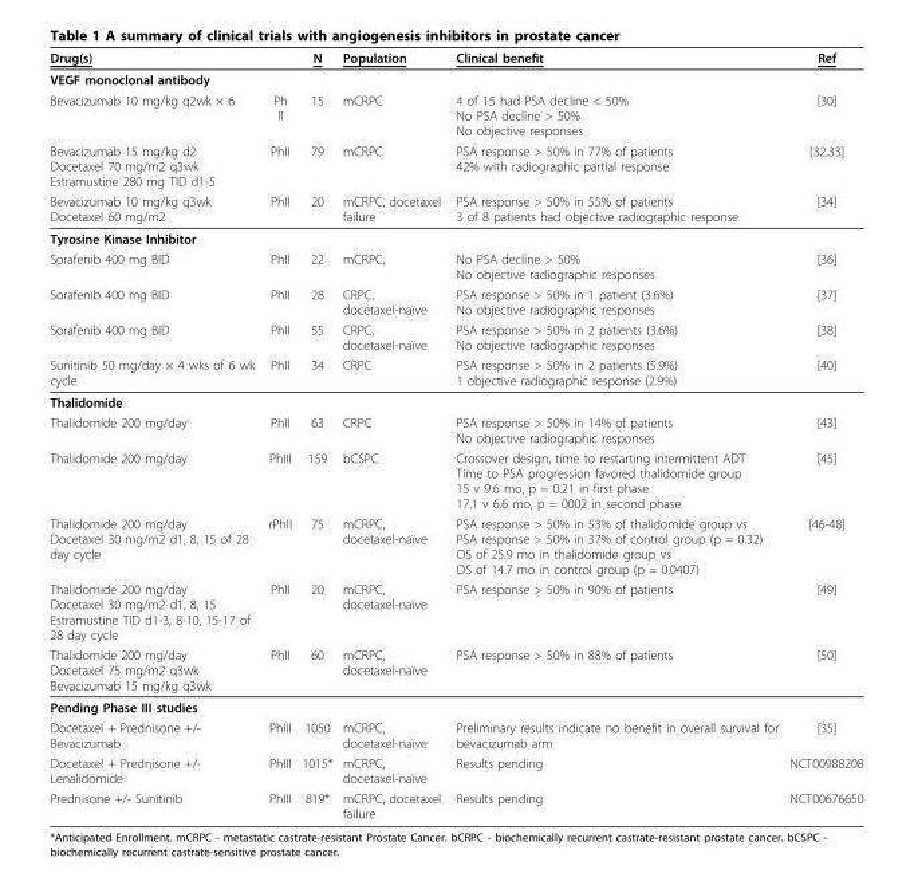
<table><thead><tr><td>Drug(s)</td><td></td><td>N</td><td>Population</td><td>Clinical benefit</td><td>Ref</td></tr></thead><tbody><tr><td colspan="6">VEGF monoclonal antibody</td></tr><tr><td>Bevacizumab 10 mg/kg q2wk × 6</td><td>Ph II</td><td>15</td><td>mCRPC</td><td>4 of 15 had PSA decline &lt; 50% No PSA decline &gt; 50% No objective responses</td><td>[30]</td></tr><tr><td>Bevacizumab 15 mg/kg d2 Docetaxel 70 mg/m2 q3wk Estramustine 280 mg TID d1-5</td><td>PhII</td><td>79</td><td>mCRPC</td><td>PSA response &gt; 50% in 77% of patients 42% with radiographic partial response</td><td>[32,33]</td></tr><tr><td>Bevacizumab 10 mg/kg q3wk Docetaxel 60 mg/m2</td><td>PhII</td><td>20</td><td>mCRPC, docetaxel failure</td><td>PSA response &gt; 50% in 55% of patients 3 of 8 patients had objective radiographic response</td><td>[34]</td></tr><tr><td colspan="6">Tyrosine Kinase Inhibitor</td></tr><tr><td>Sorafenib 400 mg BID</td><td>PhII</td><td>22</td><td>mCRPC,</td><td>No PSA decline &gt; 50% No objective radiographic responses</td><td>[36]</td></tr><tr><td>Sorafenib 400 mg BID</td><td>PhII</td><td>28</td><td>CRPC, docetaxel-naïve</td><td>PSA response &gt; 50% in 1 patient (3.6%) No objective radiographic responses</td><td>[37]</td></tr><tr><td>Sorafenib 400 mg BID</td><td>PhII</td><td>55</td><td>CRPC, docetaxel-naïve</td><td>PSA response &gt; 50% in 2 patients (3.6%) No objective radiographic responses</td><td>[38]</td></tr><tr><td>Sunitinib 50 mg/day × 4 wks of 6 wk cycle</td><td>PhII</td><td>34</td><td>CRPC</td><td>PSA response &gt; 50% in 2 patients (5.9%) 1 objective radiographic response (2.9%)</td><td>[40]</td></tr><tr><td colspan="6">Thalidomide</td></tr><tr><td>Thalidomide 200 mg/day</td><td>PhII</td><td>63</td><td>CRPC</td><td>PSA response &gt; 50% in 14% of patients No objective radiographic responses</td><td>[43]</td></tr><tr><td>Thalidomide 200 mg/day</td><td>PhIII</td><td>159</td><td>bCSPC</td><td>Crossover design, time to restarting intermittent ADT Time to PSA progression favored thalidomide group 15 v 9.6 mo, p = 0.21 in first phase 17.1 v 6.6 mo, p = 0002 in second phase</td><td>[45]</td></tr><tr><td>Thalidomide 200 mg/day Docetaxel 30 mg/m2 d1, 8, 15 of 28 day cycle</td><td>rPhII</td><td>75</td><td>mCRPC, docetaxel-naïve</td><td>PSA response &gt; 50% in 53% of thalidomide group vs PSA response &gt; 50% in 37% of control group (p = 0.32) OS of 25.9 mo in thalidomide group vs OS of 14.7 mo in control group (p = 0.0407)</td><td>[46-48]</td></tr><tr><td>Thalidomide 200 mg/day Docetaxel 30 mg/m2 d1, 8, 15 Estramustine TID d1-3, 8-10, 15-17 of 28 day cycle</td><td>PhII</td><td>20</td><td>mCRPC, docetaxel-naïve</td><td>PSA response &gt; 50% in 90% of patients</td><td>[49]</td></tr><tr><td>Thalidomide 200 mg/day Docetaxel 75 mg/m2 q3wk Bevacizumab 15 mg/kg q3wk</td><td>PhII</td><td>60</td><td>mCRPC, docetaxel-naïve</td><td>PSA response &gt; 50% in 88% of patients</td><td>[50]</td></tr><tr><td colspan="6">Pending Phase III studies</td></tr><tr><td>Docetaxel + Prednisone +/- Bevacizumab</td><td>PhIII</td><td>1050</td><td>mCRPC, docetaxel-naïve</td><td>Preliminary results indicate no benefit in overall survival for bevacizumab arm</td><td>[35]</td></tr><tr><td>Docetaxel + Prednisone +/- Lenalidomide</td><td>PhIII</td><td>1015*</td><td>mCRPC, docetaxel-naïve</td><td>Results pending</td><td>NCT00988208</td></tr><tr><td>Prednisone +/- Sunitinib</td><td>PhIII</td><td>819*</td><td>mCRPC, docetaxel failure</td><td>Results pending</td><td>NCT00676650</td></tr></tbody></table>